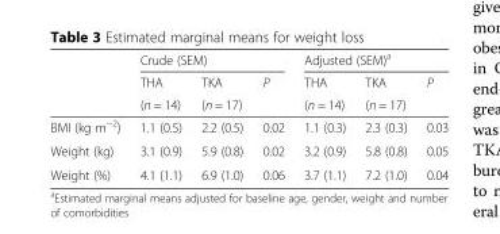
<table><thead><tr><td rowspan="3"></td><td colspan="3">Crude (SEM)</td><td colspan="3">Adjusted (SEM)<sup>a</sup></td></tr><tr><td rowspan="2">THA (n = 14)</td><td rowspan="2">TKA (n = 17)</td><td rowspan="2">P</td><td rowspan="2">THA (n = 14)</td><td rowspan="2">TKA (n = 17)</td><td rowspan="2">P</td></tr><tr></tr></thead><tbody><tr><td>BMI (kg m<sup>−2</sup>)</td><td>1.1 (0.5)</td><td>2.2 (0.5)</td><td>0.02</td><td>1.1 (0.3)</td><td>2.3 (0.3)</td><td>0.03</td></tr><tr><td>Weight (kg)</td><td>3.1 (0.9)</td><td>5.9 (0.8)</td><td>0.02</td><td>3.2 (0.9)</td><td>5.8 (0.8)</td><td>0.05</td></tr><tr><td>Weight (%)</td><td>4.1 (1.1)</td><td>6.9 (1.0)</td><td>0.06</td><td>3.7 (1.1)</td><td>7.2 (1.0)</td><td>0.04</td></tr></tbody></table>